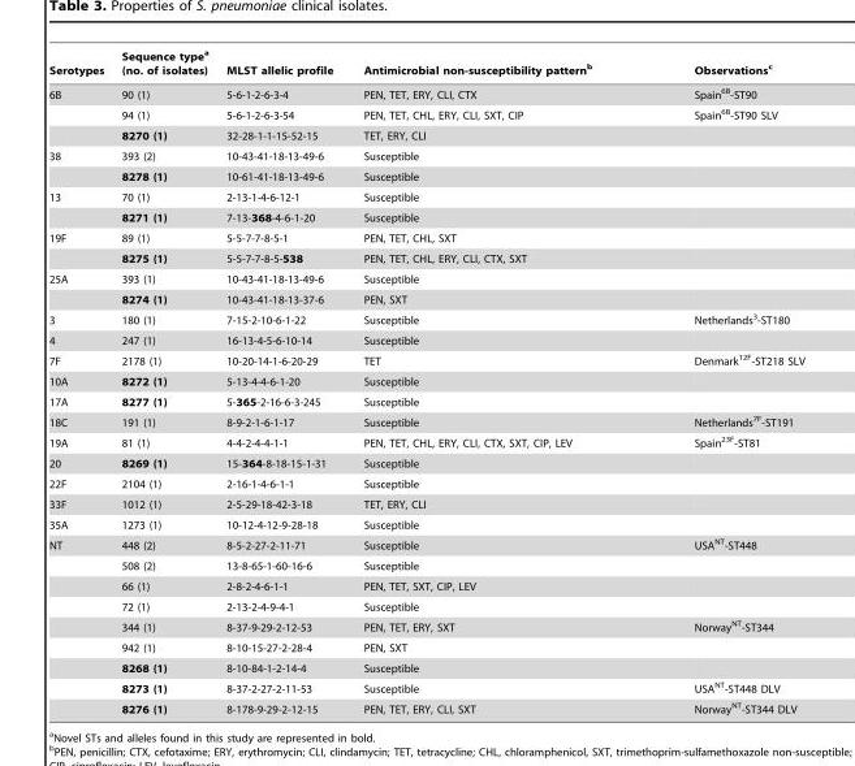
<table><thead><tr><td>Serotypes</td><td>Sequence type<sup>a</sup> (no. of isolates)</td><td>MLST allelic profile</td><td>Antimicrobial non-susceptibility pattern<sup>b</sup></td><td>Observations<sup>c</sup></td></tr></thead><tbody><tr><td rowspan="3">6B</td><td>90 (1)</td><td>5-6-1-2-6-3-4</td><td>PEN, TET, ERY, CLI, CTX</td><td>Spain<sup>6B</sup>-ST90</td></tr><tr><td>94 (1)</td><td>5-6-1-2-6-3-54</td><td>PEN, TET, CHL, ERY, CLI, SXT, CIP</td><td>Spain<sup>6B</sup>-ST90 SLV</td></tr><tr><td>8270 (1)</td><td>32-28-1-1-15-52-15</td><td>TET, ERY, CLI</td><td></td></tr><tr><td rowspan="2">38</td><td>393 (2)</td><td>10-43-41-18-13-49-6</td><td>Susceptible</td><td></td></tr><tr><td>8278 (1)</td><td>10-61-41-18-13-49-6</td><td>Susceptible</td><td></td></tr><tr><td rowspan="2">13</td><td>70 (1)</td><td>2-13-1-4-6-12-1</td><td>Susceptible</td><td></td></tr><tr><td>8271 (1)</td><td>7-13-368-4-6-1-20</td><td>Susceptible</td><td></td></tr><tr><td rowspan="2">19F</td><td>89 (1)</td><td>5-5-7-7-8-5-1</td><td>PEN, TET, CHL, SXT</td><td></td></tr><tr><td>8275 (1)</td><td>5-5-7-7-8-5-538</td><td>PEN, TET, CHL, ERY, CLI, CTX, SXT</td><td></td></tr><tr><td rowspan="2">25A</td><td>393 (1)</td><td>10-43-41-18-13-49-6</td><td>Susceptible</td><td></td></tr><tr><td>8274 (1)</td><td>10-43-41-18-13-37-6</td><td>PEN, SXT</td><td></td></tr><tr><td>3</td><td>180 (1)</td><td>7-15-2-10-6-1-22</td><td>Susceptible</td><td>Netherlands<sup>3</sup>-ST180</td></tr><tr><td>4</td><td>247 (1)</td><td>16-13-4-5-6-10-14</td><td>Susceptible</td><td></td></tr><tr><td>7F</td><td>2178 (1)</td><td>10-20-14-1-6-20-29</td><td>TET</td><td>Denmark<sup>12F</sup>-ST218 SLV</td></tr><tr><td>10A</td><td>8272 (1)</td><td>5-13-4-4-6-1-20</td><td>Susceptible</td><td></td></tr><tr><td>17A</td><td>8277 (1)</td><td>5-365-2-16-6-3-245</td><td>Susceptible</td><td></td></tr><tr><td>18C</td><td>191 (1)</td><td>8-9-2-1-6-1-17</td><td>Susceptible</td><td>Netherlands<sup>7F</sup>-ST191</td></tr><tr><td>19A</td><td>81 (1)</td><td>4-4-2-4-4-1-1</td><td>PEN, TET, CHL, ERY, CLI, CTX, SXT, CIP, LEV</td><td>Spain<sup>23F</sup>-ST81</td></tr><tr><td>20</td><td>8269 (1)</td><td>15-364-8-18-15-1-31</td><td>Susceptible</td><td></td></tr><tr><td>22F</td><td>2104 (1)</td><td>2-16-1-4-6-1-1</td><td>Susceptible</td><td></td></tr><tr><td>33F</td><td>1012 (1)</td><td>2-5-29-18-42-3-18</td><td>TET, ERY, CLI</td><td></td></tr><tr><td>35A</td><td>1273 (1)</td><td>10-12-4-12-9-28-18</td><td>Susceptible</td><td></td></tr><tr><td rowspan="9">NT</td><td>448 (2)</td><td>8-5-2-27-2-11-71</td><td>Susceptible</td><td>USA<sup>NT</sup>-ST448</td></tr><tr><td>508 (2)</td><td>13-8-65-1-60-16-6</td><td>Susceptible</td><td></td></tr><tr><td>66 (1)</td><td>2-8-2-4-6-1-1</td><td>PEN, TET, SXT, CIP, LEV</td><td></td></tr><tr><td>72 (1)</td><td>2-13-2-4-9-4-1</td><td>Susceptible</td><td></td></tr><tr><td>344 (1)</td><td>8-37-9-29-2-12-53</td><td>PEN, TET, ERY, SXT</td><td>Norway<sup>NT</sup>-ST344</td></tr><tr><td>942 (1)</td><td>8-10-15-27-2-28-4</td><td>PEN, SXT</td><td></td></tr><tr><td>8268 (1)</td><td>8-10-84-1-2-14-4</td><td>Susceptible</td><td></td></tr><tr><td>8273 (1)</td><td>8-37-2-27-2-11-53</td><td>Susceptible</td><td>USA<sup>NT</sup>-ST448 DLV</td></tr><tr><td>8276 (1)</td><td>8-178-9-29-2-12-15</td><td>PEN, TET, ERY, CLI, SXT</td><td>Norway<sup>NT</sup>-ST344 DLV</td></tr></tbody></table>